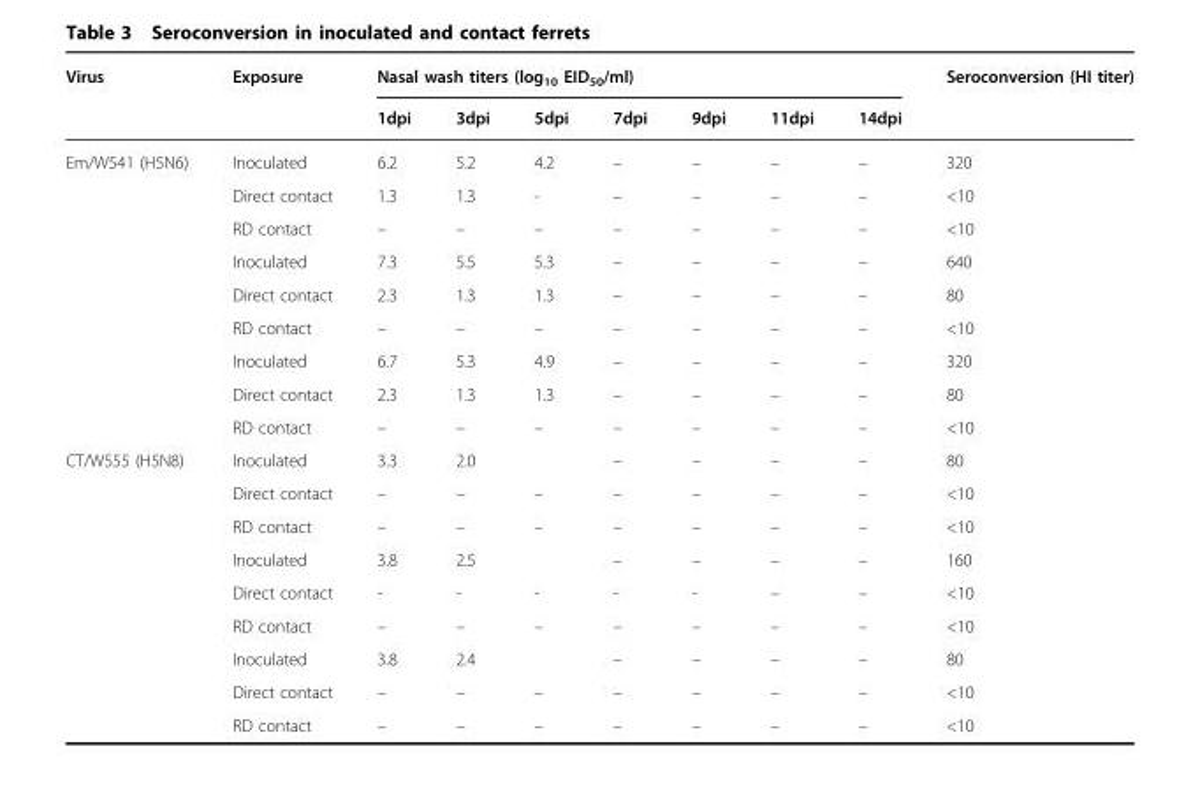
<table><thead><tr><td rowspan="2">Virus</td><td rowspan="2">Exposure</td><td colspan="7">Nasal wash titers (log<sub>10</sub> EID<sub>50</sub>/ml)</td><td rowspan="2">Seroconversion (HI titer)</td></tr><tr><td>1dpi</td><td>3dpi</td><td>5dpi</td><td>7dpi</td><td>9dpi</td><td>11dpi</td><td>14dpi</td></tr></thead><tbody><tr><td rowspan="9">Em/W541 (H5N6)</td><td>Inoculated</td><td>6.2</td><td>5.2</td><td>4.2</td><td>–</td><td>–</td><td>–</td><td>–</td><td>320</td></tr><tr><td>Direct contact</td><td>1.3</td><td>1.3</td><td>-</td><td>–</td><td>–</td><td>–</td><td>–</td><td>&lt;10</td></tr><tr><td>RD contact</td><td>–</td><td>–</td><td>–</td><td>–</td><td>–</td><td>–</td><td>–</td><td>&lt;10</td></tr><tr><td>Inoculated</td><td>7.3</td><td>5.5</td><td>5.3</td><td>–</td><td>–</td><td>–</td><td>–</td><td>640</td></tr><tr><td>Direct contact</td><td>2.3</td><td>1.3</td><td>1.3</td><td>–</td><td>–</td><td>–</td><td>–</td><td>80</td></tr><tr><td>RD contact</td><td>–</td><td>–</td><td>–</td><td>–</td><td>–</td><td>–</td><td>–</td><td>&lt;10</td></tr><tr><td>Inoculated</td><td>6.7</td><td>5.3</td><td>4.9</td><td>–</td><td>–</td><td>–</td><td>–</td><td>320</td></tr><tr><td>Direct contact</td><td>2.3</td><td>1.3</td><td>1.3</td><td>–</td><td>–</td><td>–</td><td>–</td><td>80</td></tr><tr><td>RD contact</td><td>–</td><td>–</td><td>–</td><td>–</td><td>–</td><td>–</td><td>–</td><td>&lt;10</td></tr><tr><td rowspan="9">CT/W555 (H5N8)</td><td>Inoculated</td><td>3.3</td><td>2.0</td><td></td><td>–</td><td>–</td><td>–</td><td>–</td><td>80</td></tr><tr><td>Direct contact</td><td>–</td><td>–</td><td>–</td><td>–</td><td>–</td><td>–</td><td>–</td><td>&lt;10</td></tr><tr><td>RD contact</td><td>–</td><td>–</td><td>–</td><td>–</td><td>–</td><td>–</td><td>–</td><td>&lt;10</td></tr><tr><td>Inoculated</td><td>3.8</td><td>2.5</td><td></td><td>–</td><td>–</td><td>–</td><td>–</td><td>160</td></tr><tr><td>Direct contact</td><td>-</td><td>-</td><td>-</td><td>-</td><td>-</td><td>–</td><td>–</td><td>&lt;10</td></tr><tr><td>RD contact</td><td>–</td><td>–</td><td>–</td><td>–</td><td>–</td><td>–</td><td>–</td><td>&lt;10</td></tr><tr><td>Inoculated</td><td>3.8</td><td>2.4</td><td></td><td>–</td><td>–</td><td>–</td><td>–</td><td>80</td></tr><tr><td>Direct contact</td><td>–</td><td>–</td><td>–</td><td>–</td><td>–</td><td>–</td><td>–</td><td>&lt;10</td></tr><tr><td>RD contact</td><td>–</td><td>–</td><td>–</td><td>–</td><td>–</td><td>–</td><td>–</td><td>&lt;10</td></tr></tbody></table>